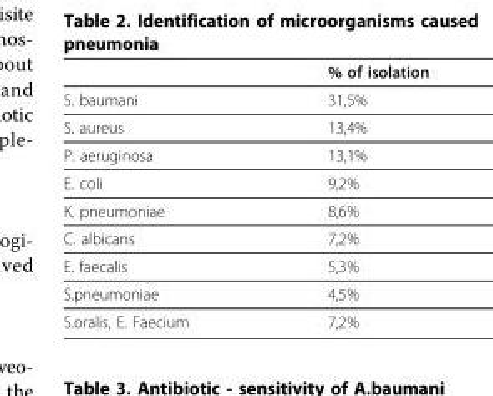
<table><thead><tr><td></td><td>% of isolation</td></tr></thead><tbody><tr><td>S. baumani</td><td>31,5%</td></tr><tr><td>S. aureus</td><td>13,4%</td></tr><tr><td>P. aeruginosa</td><td>13,1%</td></tr><tr><td>E. coli</td><td>9,2%</td></tr><tr><td>K. pneumoniae</td><td>8,6%</td></tr><tr><td>C. albicans</td><td>7,2%</td></tr><tr><td>E. faecalis</td><td>5,3%</td></tr><tr><td>S.pneumoniae</td><td>4,5%</td></tr><tr><td>S.oralis, E. Faecium</td><td>7,2%</td></tr></tbody></table>